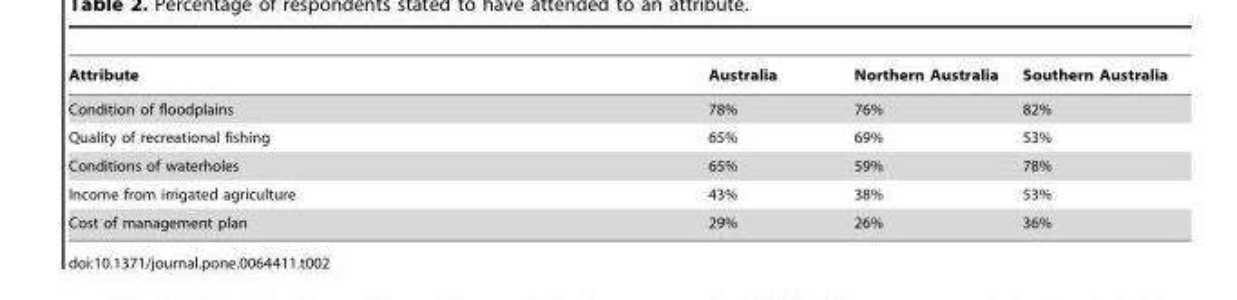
<table><thead><tr><td>Attribute</td><td>Australia</td><td>Northern Australia</td><td>Southern Australia</td></tr></thead><tbody><tr><td>Condition of floodplains</td><td>78%</td><td>76%</td><td>82%</td></tr><tr><td>Quality of recreational fishing</td><td>65%</td><td>69%</td><td>53%</td></tr><tr><td>Conditions of waterholes</td><td>65%</td><td>59%</td><td>78%</td></tr><tr><td>Income from irrigated agriculture</td><td>43%</td><td>38%</td><td>53%</td></tr><tr><td>Cost of management plan</td><td>29%</td><td>26%</td><td>36%</td></tr></tbody></table>